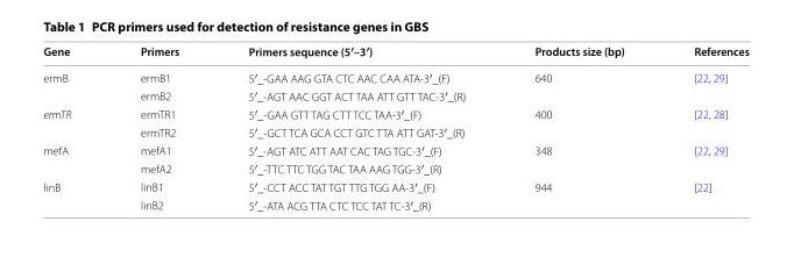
<table><thead><tr><td>Gene</td><td>Primers</td><td>Primers sequence (5′–3′)</td><td>Products size (bp)</td><td>References</td></tr></thead><tbody><tr><td rowspan="2">ermB</td><td>ermB1</td><td>5′_-GAA AAG GTA CTC AAC CAA ATA-3′_(F)</td><td rowspan="2">640</td><td rowspan="2">[22, 29]</td></tr><tr><td>ermB2</td><td>5′_-AGT AAC GGT ACT TAA ATT GTT TAC-3′_(R)</td></tr><tr><td rowspan="2">ermTR</td><td>ermTR1</td><td>5′_-GAA GTT TAG CTT TCC TAA-3′_(F)</td><td rowspan="2">400</td><td rowspan="2">[22, 28]</td></tr><tr><td>ermTR2</td><td>5′_-GCT TCA GCA CCT GTC TTA ATT GAT-3′_(R)</td></tr><tr><td rowspan="2">mefA</td><td>mefA1</td><td>5′_-AGT ATC ATT AAT CAC TAG TGC-3′_(F)</td><td rowspan="2">348</td><td rowspan="2">[22, 29]</td></tr><tr><td>mefA2</td><td>5′_-TTC TTC TGG TAC TAA AAG TGG-3′_(R)</td></tr><tr><td rowspan="2">linB</td><td>linB1</td><td>5′_-CCT ACC TAT TGT TTG TGG AA-3′_(F)</td><td rowspan="2">944</td><td rowspan="2">[22]</td></tr><tr><td>linB2</td><td>5′_-ATA ACG TTA CTC TCC TAT TC-3′_(R)</td></tr></tbody></table>